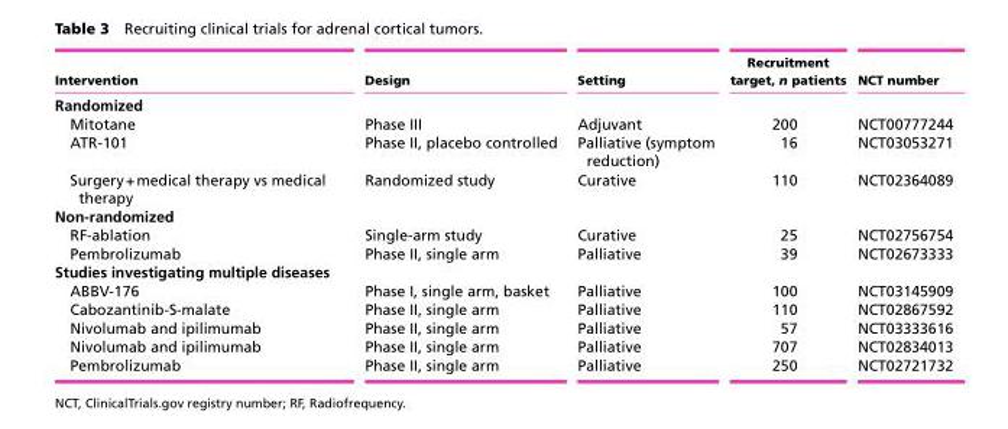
<table><thead><tr><td>Intervention</td><td>Design</td><td>Setting</td><td>Recruitment target, n patients</td><td>NCT number</td></tr></thead><tbody><tr><td colspan="5">Randomized</td></tr><tr><td>Mitotane</td><td>Phase III</td><td>Adjuvant</td><td>200</td><td>NCT00777244</td></tr><tr><td>ATR-101</td><td>Phase II, placebo controlled</td><td>Palliative (symptom reduction)</td><td>16</td><td>NCT03053271</td></tr><tr><td>Surgery + medical therapy vs medical therapy</td><td>Randomized study</td><td>Curative</td><td>110</td><td>NCT02364089</td></tr><tr><td colspan="5">Non-randomized</td></tr><tr><td>RF-ablation</td><td>Single-arm study</td><td>Curative</td><td>25</td><td>NCT02756754</td></tr><tr><td>Pembrolizumab</td><td>Phase II, single arm</td><td>Palliative</td><td>39</td><td>NCT02673333</td></tr><tr><td colspan="5">Studies investigating multiple diseases</td></tr><tr><td>ABBV-176</td><td>Phase I, single arm, basket</td><td>Palliative</td><td>100</td><td>NCT03145909</td></tr><tr><td>Cabozantinib-S-malate</td><td>Phase II, single arm</td><td>Palliative</td><td>110</td><td>NCT02867592</td></tr><tr><td>Nivolumab and ipilimumab</td><td>Phase II, single arm</td><td>Palliative</td><td>57</td><td>NCT03333616</td></tr><tr><td>Nivolumab and ipilimumab</td><td>Phase II, single arm</td><td>Palliative</td><td>707</td><td>NCT02834013</td></tr><tr><td>Pembrolizumab</td><td>Phase II, single arm</td><td>Palliative</td><td>250</td><td>NCT02721732</td></tr></tbody></table>